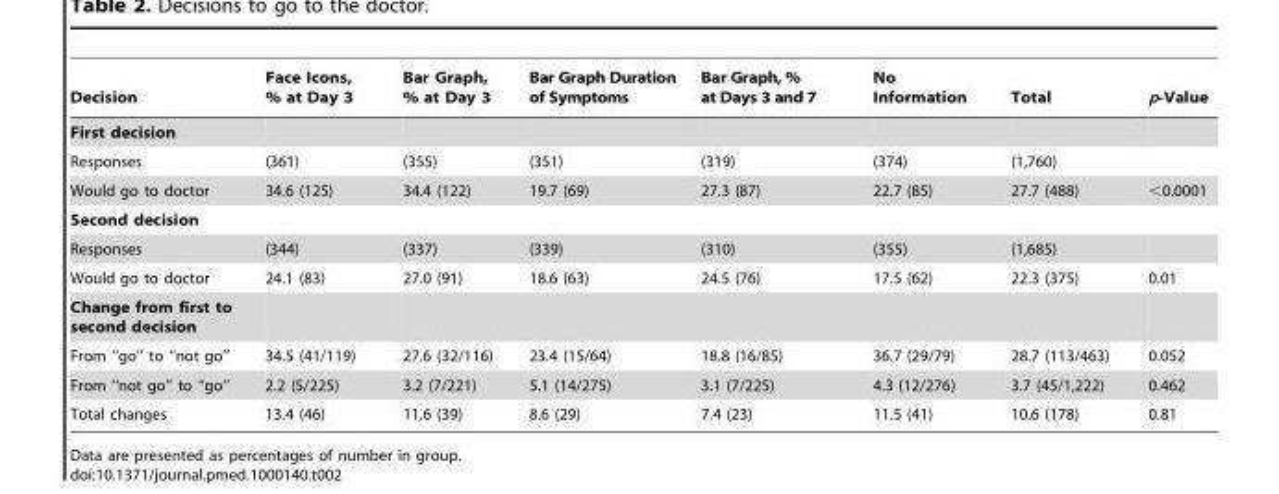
<table><thead><tr><td>Decision</td><td>Face Icons, % at Day 3</td><td>Bar Graph, % at Day 3</td><td>Bar Graph Duration of Symptoms</td><td>Bar Graph, % at Days 3 and 7</td><td>No Information</td><td>Total</td><td>p-Value</td></tr></thead><tbody><tr><td colspan="8">First decision</td></tr><tr><td>Responses</td><td>(361)</td><td>(355)</td><td>(351)</td><td>(319)</td><td>(374)</td><td>(1,760)</td><td></td></tr><tr><td>Would go to doctor</td><td>34.6 (125)</td><td>34.4 (122)</td><td>19.7 (69)</td><td>27.3 (87)</td><td>22.7 (85)</td><td>27.7 (488)</td><td>&lt;0.0001</td></tr><tr><td colspan="8">Second decision</td></tr><tr><td>Responses</td><td>(344)</td><td>(337)</td><td>(339)</td><td>(310)</td><td>(355)</td><td>(1,685)</td><td></td></tr><tr><td>Would go to doctor</td><td>24.1 (83)</td><td>27.0 (91)</td><td>18.6 (63)</td><td>24.5 (76)</td><td>17.5 (62)</td><td>22.3 (375)</td><td>0.01</td></tr><tr><td colspan="8">Change from first to second decision</td></tr><tr><td>From ‘‘go’’ to ‘‘not go’’</td><td>34.5 (41/119)</td><td>27.6 (32/116)</td><td>23.4 (15/64)</td><td>18.8 (16/85)</td><td>36.7 (29/79)</td><td>28.7 (113/463)</td><td>0.052</td></tr><tr><td>From ‘‘not go’’ to ‘‘go’’</td><td>2.2 (5/225)</td><td>3.2 (7/221)</td><td>5.1 (14/275)</td><td>3.1 (7/225)</td><td>4.3 (12/276)</td><td>3.7 (45/1,222)</td><td>0.462</td></tr><tr><td>Total changes</td><td>13.4 (46)</td><td>11.6 (39)</td><td>8.6 (29)</td><td>7.4 (23)</td><td>11.5 (41)</td><td>10.6 (178)</td><td>0.81</td></tr></tbody></table>